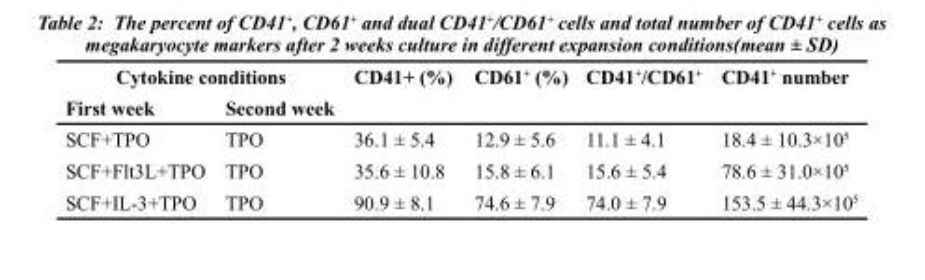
<table><thead><tr><td colspan="2">Cytokine conditions</td><td rowspan="2">CD41<sup>+</sup> (%)</td><td rowspan="2">CD61<sup>+</sup> (%)</td><td rowspan="2">CD41<sup>+</sup>/CD61<sup>+</sup></td><td rowspan="2">CD41<sup>+</sup> number</td></tr><tr><td>First week</td><td>Second week</td></tr></thead><tbody><tr><td>SCF+TPO</td><td>TPO</td><td>36.1 ± 5.4</td><td>12.9 ± 5.6</td><td>11.1 ± 4.1</td><td>18.4 ± 10.3×10<sup>5</sup></td></tr><tr><td>SCF+Flt3L+TPO</td><td>TPO</td><td>35.6 ± 10.8</td><td>15.8 ± 6.1</td><td>15.6 ± 5.4</td><td>78.6 ± 31.0×10<sup>5</sup></td></tr><tr><td>SCF+IL-3+TPO</td><td>TPO</td><td>90.9 ± 8.1</td><td>74.6 ± 7.9</td><td>74.0 ± 7.9</td><td>153.5 ± 44.3×10<sup>5</sup></td></tr></tbody></table>